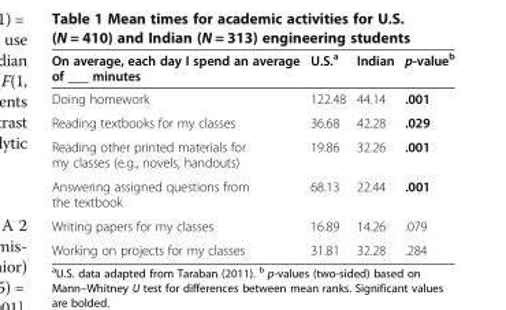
<table><thead><tr><td>On average, each day I spend an average of ___ minutes</td><td>U.S.<sup>a</sup></td><td>Indian</td><td>p-value<sup>b</sup></td></tr></thead><tbody><tr><td>Doing homework</td><td>122.48</td><td>44.14</td><td>.001</td></tr><tr><td>Reading textbooks for my classes</td><td>36.68</td><td>42.28</td><td>.029</td></tr><tr><td>Reading other printed materials for my classes (e.g., novels, handouts)</td><td>19.86</td><td>32.26</td><td>.001</td></tr><tr><td>Answering assigned questions from the textbook</td><td>68.13</td><td>22.44</td><td>.001</td></tr><tr><td>Writing papers for my classes</td><td>16.89</td><td>14.26</td><td>.079</td></tr><tr><td>Working on projects for my classes</td><td>31.81</td><td>32.28</td><td>.284</td></tr></tbody></table>